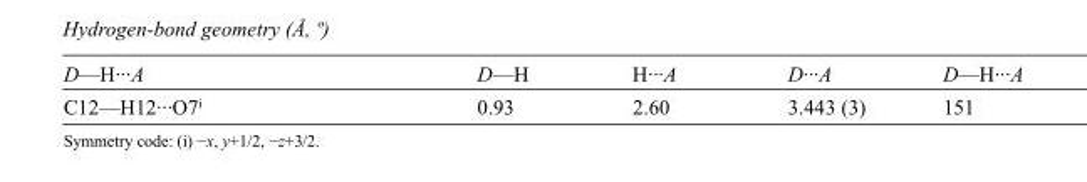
<table><tbody><tr><td>D—H···A</td><td>D—H</td><td>H···A</td><td>D···A</td><td>D—H···A</td></tr><tr><td>C12—H12···O7<sup>i</sup></td><td>0.93</td><td>2.60</td><td>3.443 (3)</td><td>151</td></tr></tbody></table>